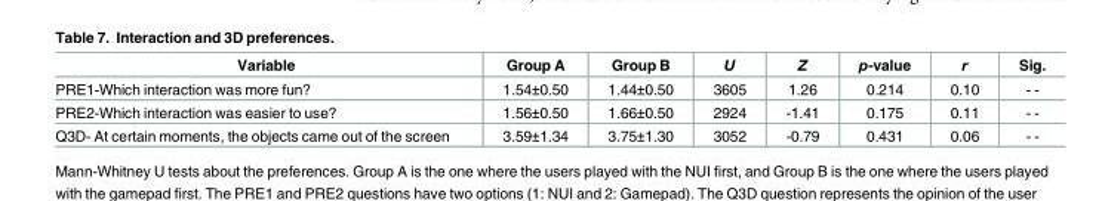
<table><thead><tr><td>Variable</td><td>Group A</td><td>Group B</td><td>U</td><td>Z</td><td>p-value</td><td>r</td><td>Sig.</td></tr></thead><tbody><tr><td>PRE1-Which interaction was more fun?</td><td>1.54±0.50</td><td>1.44±0.50</td><td>3605</td><td>1.26</td><td>0.214</td><td>0.10</td><td>- -</td></tr><tr><td>PRE2-Which interaction was easier to use?</td><td>1.56±0.50</td><td>1.66±0.50</td><td>2924</td><td>-1.41</td><td>0.175</td><td>0.11</td><td>- -</td></tr><tr><td>Q3D- At certain moments, the objects came out of the screen</td><td>3.59±1.34</td><td>3.75±1.30</td><td>3052</td><td>-0.79</td><td>0.431</td><td>0.06</td><td>- -</td></tr></tbody></table>